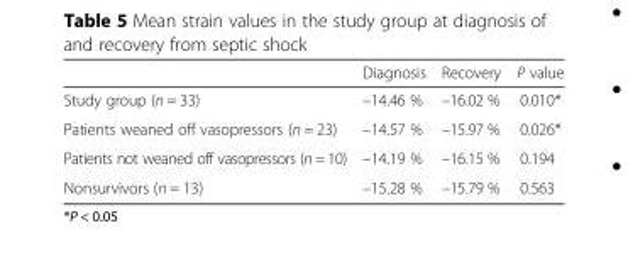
<table><thead><tr><td></td><td>Diagnosis</td><td>Recovery</td><td>P value</td></tr></thead><tbody><tr><td>Study group (n = 33)</td><td>–14.46 %</td><td>–16.02 %</td><td>0.010*</td></tr><tr><td>Patients weaned off vasopressors (n = 23)</td><td>–14.57 %</td><td>–15.97 %</td><td>0.026*</td></tr><tr><td>Patients not weaned off vasopressors (n = 10)</td><td>–14.19 %</td><td>–16.15 %</td><td>0.194</td></tr><tr><td>Nonsurvivors (n = 13)</td><td>–15.28 %</td><td>–15.79 %</td><td>0.563</td></tr></tbody></table>